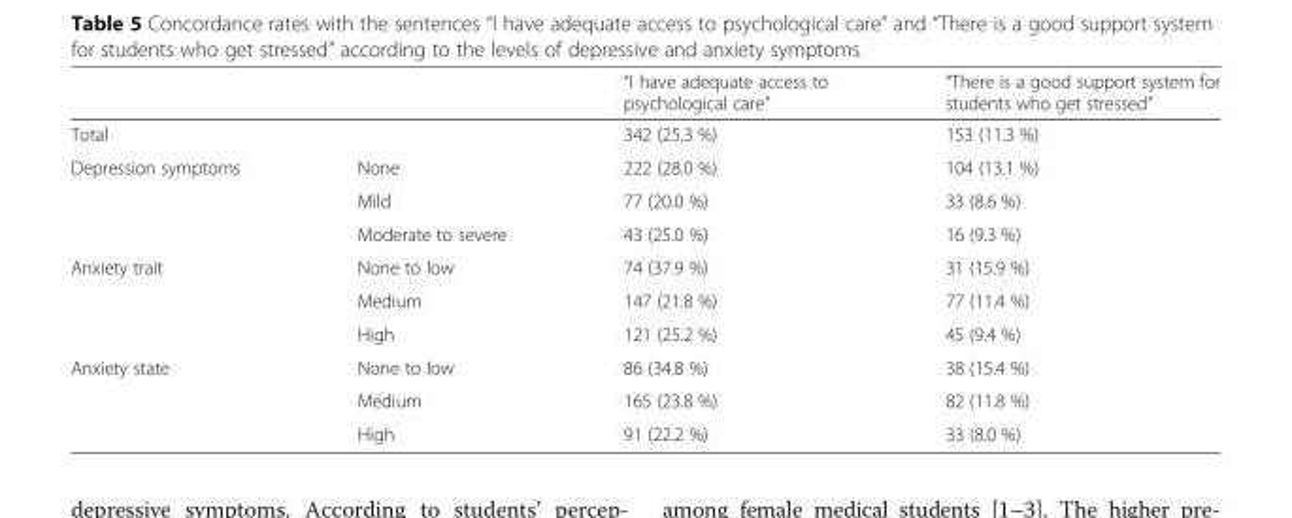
<table><thead><tr><td></td><td></td><td>“I have adequate access to psychological care”</td><td>“There is a good support system for students who get stressed”</td></tr></thead><tbody><tr><td colspan="2">Total</td><td>342 (25.3 %)</td><td>153 (11.3 %)</td></tr><tr><td rowspan="3">Depression symptoms</td><td>None</td><td>222 (28.0 %)</td><td>104 (13.1 %)</td></tr><tr><td>Mild</td><td>77 (20.0 %)</td><td>33 (8.6 %)</td></tr><tr><td>Moderate to severe</td><td>43 (25.0 %)</td><td>16 (9.3 %)</td></tr><tr><td rowspan="3">Anxiety trait</td><td>None to low</td><td>74 (37.9 %)</td><td>31 (15.9 %)</td></tr><tr><td>Medium</td><td>147 (21.8 %)</td><td>77 (11.4 %)</td></tr><tr><td>High</td><td>121 (25.2 %)</td><td>45 (9.4 %)</td></tr><tr><td rowspan="3">Anxiety state</td><td>None to low</td><td>86 (34.8 %)</td><td>38 (15.4 %)</td></tr><tr><td>Medium</td><td>165 (23.8 %)</td><td>82 (11.8 %)</td></tr><tr><td>High</td><td>91 (22.2 %)</td><td>33 (8.0 %)</td></tr></tbody></table>